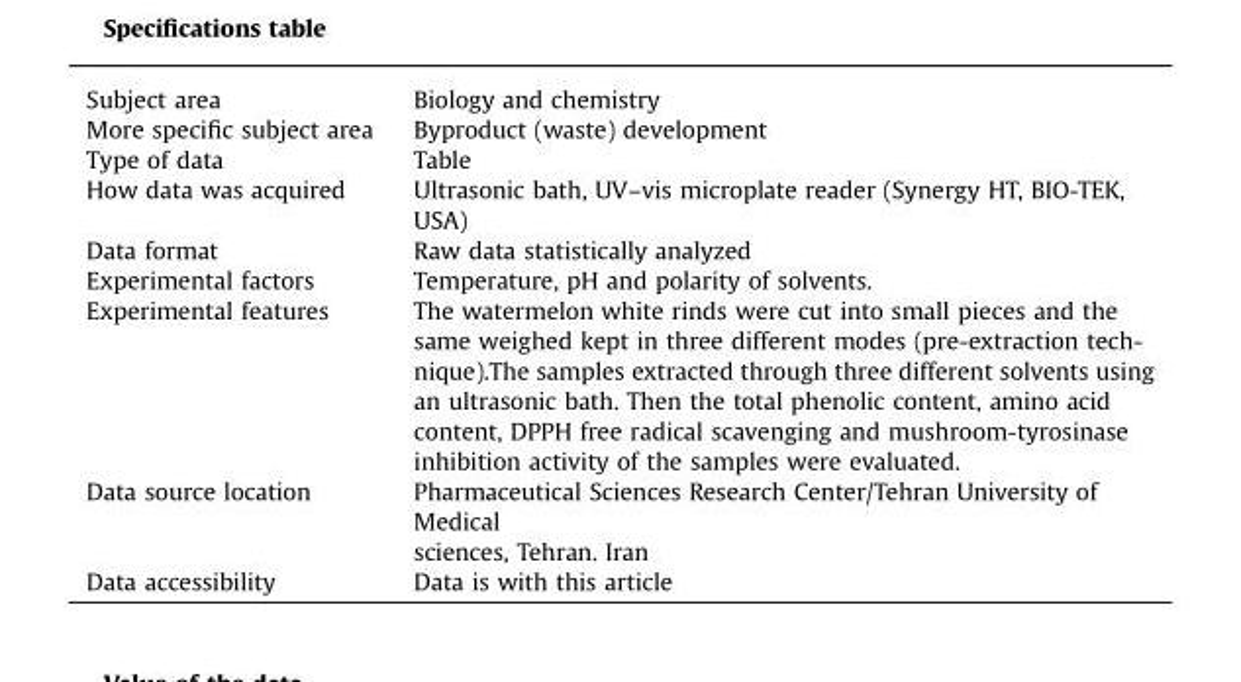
<table><tbody><tr><td>Subject area</td><td>Biology and chemistry</td></tr><tr><td>More specific subject area</td><td>Byproduct (waste) development</td></tr><tr><td>Type of data</td><td>Table</td></tr><tr><td>How data was acquired</td><td>Ultrasonic bath, UV–vis microplate reader (Synergy HT, BIO-TEK, USA)</td></tr><tr><td>Data format</td><td>Raw data statistically analyzed</td></tr><tr><td>Experimental factors</td><td>Temperature, pH and polarity of solvents.</td></tr><tr><td>Experimental features</td><td>The watermelon white rinds were cut into small pieces and the same weighed kept in three different modes (pre-extraction tech- nique).The samples extracted through three different solvents using an ultrasonic bath. Then the total phenolic content, amino acid content, DPPH free radical scavenging and mushroom-tyrosinase inhibition activity of the samples were evaluated.</td></tr><tr><td>Data source location</td><td>Pharmaceutical Sciences Research Center/Tehran University of Medical sciences, Tehran. Iran</td></tr><tr><td>Data accessibility</td><td>Data is with this article</td></tr></tbody></table>